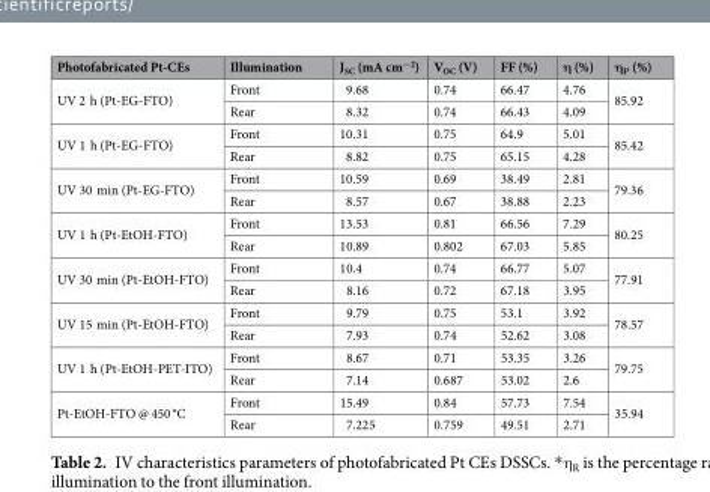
<table><thead><tr><td>Photofabricated Pt-CEs</td><td>Illumination</td><td>J<sub>SC</sub> (mA cm<sup>−2</sup>)</td><td>V<sub>OC</sub> (V)</td><td>FF (%)</td><td>η (%)</td><td>η<sub>Ρ</sub> (%)</td></tr></thead><tbody><tr><td rowspan="2">UV 2 h (Pt-EG-FTO)</td><td>Front</td><td>9.68</td><td>0.74</td><td>66.47</td><td>4.76</td><td rowspan="2">85.92</td></tr><tr><td>Rear</td><td>8.32</td><td>0.74</td><td>66.43</td><td>4.09</td></tr><tr><td rowspan="2">UV 1 h (Pt-EG-FTO)</td><td>Front</td><td>10.31</td><td>0.75</td><td>64.9</td><td>5.01</td><td rowspan="2">85.42</td></tr><tr><td>Rear</td><td>8.82</td><td>0.75</td><td>65.15</td><td>4.28</td></tr><tr><td rowspan="2">UV 30 min (Pt-EG-FTO)</td><td>Front</td><td>10.59</td><td>0.69</td><td>38.49</td><td>2.81</td><td rowspan="2">79.36</td></tr><tr><td>Rear</td><td>8.57</td><td>0.67</td><td>38.88</td><td>2.23</td></tr><tr><td rowspan="2">UV 1 h (Pt-EtOH-FTO)</td><td>Front</td><td>13.53</td><td>0.81</td><td>66.56</td><td>7.29</td><td rowspan="2">80.25</td></tr><tr><td>Rear</td><td>10.89</td><td>0.802</td><td>67.03</td><td>5.85</td></tr><tr><td rowspan="2">UV 30 min (Pt-EtOH-FTO)</td><td>Front</td><td>10.4</td><td>0.74</td><td>66.77</td><td>5.07</td><td rowspan="2">77.91</td></tr><tr><td>Rear</td><td>8.16</td><td>0.72</td><td>67.18</td><td>3.95</td></tr><tr><td rowspan="2">UV 15 min (Pt-EtOH-FTO)</td><td>Front</td><td>9.79</td><td>0.75</td><td>53.1</td><td>3.92</td><td rowspan="2">78.57</td></tr><tr><td>Rear</td><td>7.93</td><td>0.74</td><td>52.62</td><td>3.08</td></tr><tr><td rowspan="2">UV 1 h (Pt-EtOH-PET-ITO)</td><td>Front</td><td>8.67</td><td>0.71</td><td>53.35</td><td>3.26</td><td rowspan="2">79.75</td></tr><tr><td>Rear</td><td>7.14</td><td>0.687</td><td>53.02</td><td>2.6</td></tr><tr><td rowspan="2">Pt-EtOH-FTO @ 450 °C</td><td>Front</td><td>15.49</td><td>0.84</td><td>57.73</td><td>7.54</td><td rowspan="2">35.94</td></tr><tr><td>Rear</td><td>7.225</td><td>0.759</td><td>49.51</td><td>2.71</td></tr></tbody></table>